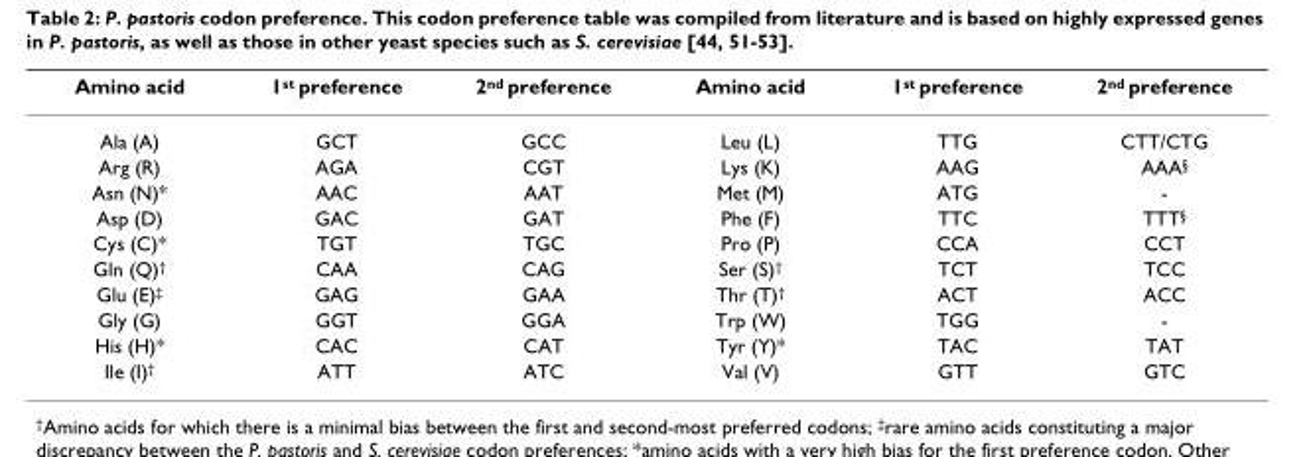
<table><thead><tr><td>Amino acid</td><td>1<sup>st</sup> preference</td><td>2<sup>nd</sup> preference</td><td>Amino acid</td><td>1<sup>st</sup> preference</td><td>2<sup>nd</sup> preference</td></tr></thead><tbody><tr><td>Ala (A)</td><td>GCT</td><td>GCC</td><td>Leu (L)</td><td>TTG</td><td>CTT/CTG</td></tr><tr><td>Arg (R)</td><td>AGA</td><td>CGT</td><td>Lys (K)</td><td>AAG</td><td>AAA<sup>§</sup></td></tr><tr><td>Asn (N)*</td><td>AAC</td><td>AAT</td><td>Met (M)</td><td>ATG</td><td>-</td></tr><tr><td>Asp (D)</td><td>GAC</td><td>GAT</td><td>Phe (F)</td><td>TTC</td><td>TTT<sup>§</sup></td></tr><tr><td>Cys (C)*</td><td>TGT</td><td>TGC</td><td>Pro (P)</td><td>CCA</td><td>CCT</td></tr><tr><td>Gln (Q)<sup>†</sup></td><td>CAA</td><td>CAG</td><td>Ser (S)<sup>†</sup></td><td>TCT</td><td>TCC</td></tr><tr><td>Glu (E)<sup>‡</sup></td><td>GAG</td><td>GAA</td><td>Thr (T)<sup>†</sup></td><td>ACT</td><td>ACC</td></tr><tr><td>Gly (G)</td><td>GGT</td><td>GGA</td><td>Trp (W)</td><td>TGG</td><td>-</td></tr><tr><td>His (H)*</td><td>CAC</td><td>CAT</td><td>Tyr (Y)*</td><td>TAC</td><td>TAT</td></tr><tr><td>Ile (I)<sup>†</sup></td><td>ATT</td><td>ATC</td><td>Val (V)</td><td>GTT</td><td>GTC</td></tr></tbody></table>